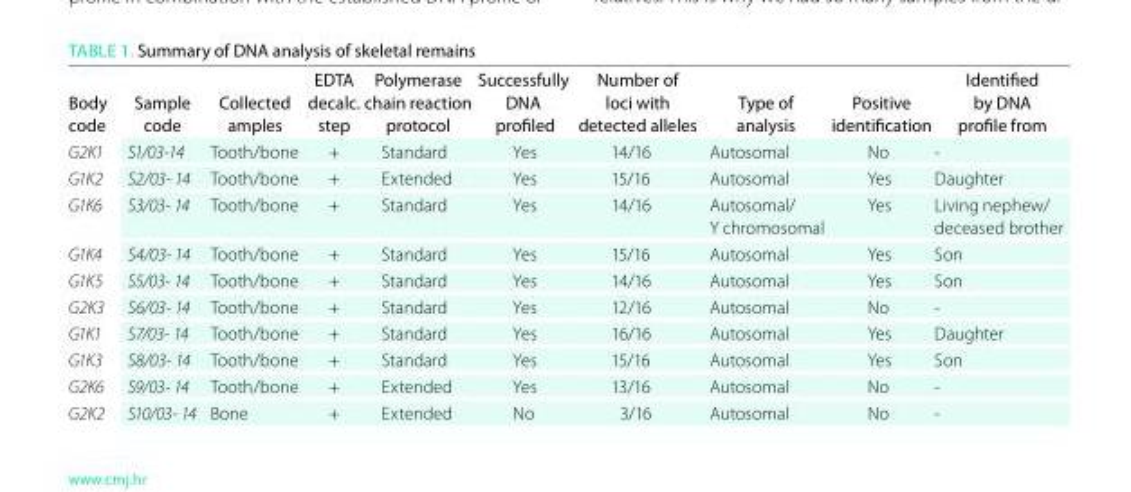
<table><thead><tr><td>Body code</td><td>Sample code</td><td>collected amples</td><td>EDTa decalc. step</td><td>Polymerase chain reaction protocol</td><td>Successfully DNa profiled</td><td>Number of loci with detected alleles</td><td>Type of analysis</td><td>Positive identification</td><td>identified by DNa profile from</td></tr></thead><tbody><tr><td>G2K1</td><td>S1/03-14</td><td>Tooth/bone</td><td>+</td><td>Standard</td><td>Yes</td><td>14/16</td><td>Autosomal</td><td>No</td><td>-</td></tr><tr><td>G1K2</td><td>S2/03- 14</td><td>Tooth/bone</td><td>+</td><td>Extended</td><td>Yes</td><td>15/16</td><td>Autosomal</td><td>Yes</td><td>Daughter</td></tr><tr><td>G1K6</td><td>S3/03- 14</td><td>Tooth/bone</td><td>+</td><td>Standard</td><td>Yes</td><td>14/16</td><td>Autosomal/ Y chromosomal</td><td>Yes</td><td>Living nephew/ deceased brother</td></tr><tr><td>G1K4</td><td>S4/03- 14</td><td>Tooth/bone</td><td>+</td><td>Standard</td><td>Yes</td><td>15/16</td><td>Autosomal</td><td>Yes</td><td>Son</td></tr><tr><td>G1K5</td><td>S5/03- 14</td><td>Tooth/bone</td><td>+</td><td>Standard</td><td>Yes</td><td>14/16</td><td>Autosomal</td><td>Yes</td><td>Son</td></tr><tr><td>G2K3</td><td>S6/03- 14</td><td>Tooth/bone</td><td>+</td><td>Standard</td><td>Yes</td><td>12/16</td><td>Autosomal</td><td>No</td><td>-</td></tr><tr><td>G1K1</td><td>S7/03- 14</td><td>Tooth/bone</td><td>+</td><td>Standard</td><td>Yes</td><td>16/16</td><td>Autosomal</td><td>Yes</td><td>Daughter</td></tr><tr><td>G1K3</td><td>S8/03- 14</td><td>Tooth/bone</td><td>+</td><td>Standard</td><td>Yes</td><td>15/16</td><td>Autosomal</td><td>Yes</td><td>Son</td></tr><tr><td>G2K6</td><td>S9/03- 14</td><td>Tooth/bone</td><td>+</td><td>Extended</td><td>Yes</td><td>13/16</td><td>Autosomal</td><td>No</td><td>-</td></tr><tr><td>G2K2</td><td>S10/03- 14</td><td>Bone</td><td>+</td><td>Extended</td><td>No</td><td>3/16</td><td>Autosomal</td><td>No</td><td>-</td></tr></tbody></table>